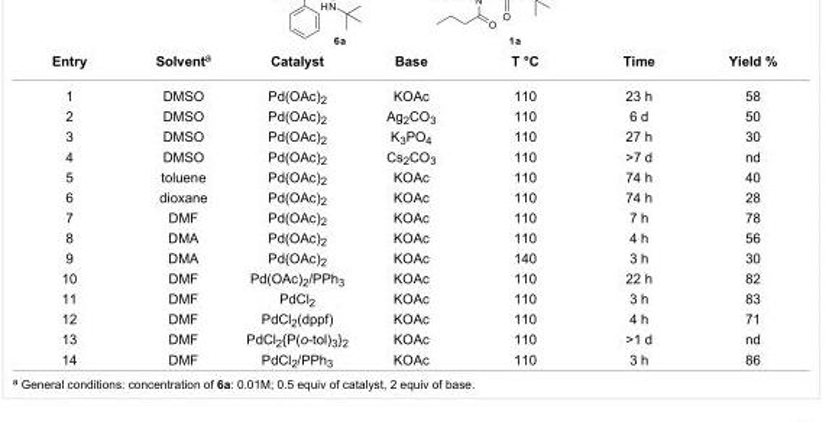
<table><tbody><tr><td>Entry</td><td>Solvent<sup>a</sup></td><td>Catalyst</td><td>Base</td><td>T °C</td><td>Time</td><td>Yield %</td></tr><tr><td>1</td><td>DMSO</td><td>Pd(OAc)<sub>2</sub></td><td>KOAc</td><td>110</td><td>23 h</td><td>58</td></tr><tr><td>2</td><td>DMSO</td><td>Pd(OAc)<sub>2</sub></td><td>Ag<sub>2</sub>CO<sub>3</sub></td><td>110</td><td>6 d</td><td>50</td></tr><tr><td>3</td><td>DMSO</td><td>Pd(OAc)<sub>2</sub></td><td>K<sub>3</sub>PO<sub>4</sub></td><td>110</td><td>27 h</td><td>30</td></tr><tr><td>4</td><td>DMSO</td><td>Pd(OAc)<sub>2</sub></td><td>Cs<sub>2</sub>CO<sub>3</sub></td><td>110</td><td>&gt;7 d</td><td>nd</td></tr><tr><td>5</td><td>toluene</td><td>Pd(OAc)<sub>2</sub></td><td>KOAc</td><td>110</td><td>74 h</td><td>40</td></tr><tr><td>6</td><td>dioxane</td><td>Pd(OAc)<sub>2</sub></td><td>KOAc</td><td>110</td><td>74 h</td><td>28</td></tr><tr><td>7</td><td>DMF</td><td>Pd(OAc)<sub>2</sub></td><td>KOAc</td><td>110</td><td>7 h</td><td>78</td></tr><tr><td>8</td><td>DMA</td><td>Pd(OAc)<sub>2</sub></td><td>KOAc</td><td>110</td><td>4 h</td><td>56</td></tr><tr><td>9</td><td>DMA</td><td>Pd(OAc)<sub>2</sub></td><td>KOAc</td><td>140</td><td>3 h</td><td>30</td></tr><tr><td>10</td><td>DMF</td><td>Pd(OAc)<sub>2</sub>/PPh<sub>3</sub></td><td>KOAc</td><td>110</td><td>22 h</td><td>82</td></tr><tr><td>11</td><td>DMF</td><td>PdCl<sub>2</sub></td><td>KOAc</td><td>110</td><td>3 h</td><td>83</td></tr><tr><td>12</td><td>DMF</td><td>PdCl<sub>2</sub>(dppf)</td><td>KOAc</td><td>110</td><td>4 h</td><td>71</td></tr><tr><td>13</td><td>DMF</td><td>PdCl<sub>2</sub>{P(o-tol)<sub>3</sub>}<sub>2</sub></td><td>KOAc</td><td>110</td><td>&gt;1 d</td><td>nd</td></tr><tr><td>14</td><td>DMF</td><td>PdCl<sub>2</sub>/PPh<sub>3</sub></td><td>KOAc</td><td>110</td><td>3 h</td><td>86</td></tr></tbody></table>